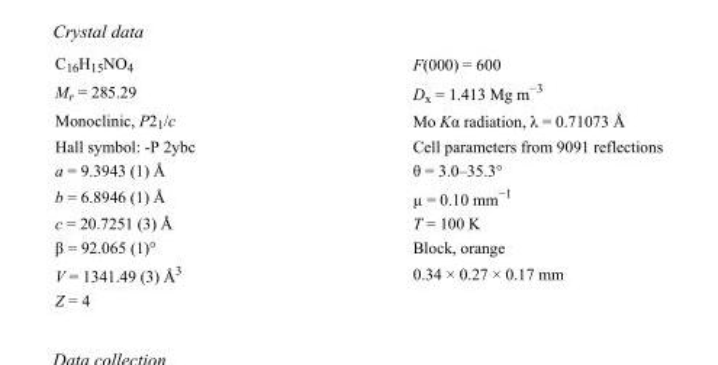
<table><tbody><tr><td>C<sub>16</sub>H<sub>15</sub>NO<sub>4</sub></td><td>F(000) = 600</td></tr><tr><td>M<sub>r</sub> = 285.29</td><td>D<sub>x</sub> = 1.413 Mg m<sup>−3</sup></td></tr><tr><td>Monoclinic, P2<sub>1</sub>/c</td><td>Mo Kα radiation, λ = 0.71073 Å</td></tr><tr><td>Hall symbol: -P 2ybc</td><td>Cell parameters from 9091 reflections</td></tr><tr><td>a = 9.3943 (1) Å</td><td>θ = 3.0–35.3°</td></tr><tr><td>b = 6.8946 (1) Å</td><td>µ = 0.10 mm<sup>−1</sup></td></tr><tr><td>c = 20.7251 (3) Å</td><td>T = 100 K</td></tr><tr><td>β = 92.065 (1)°</td><td>Block, orange</td></tr><tr><td>V = 1341.49 (3) Å<sup>3</sup></td><td>0.34 × 0.27 × 0.17 mm</td></tr><tr><td>Z = 4</td><td></td></tr></tbody></table>